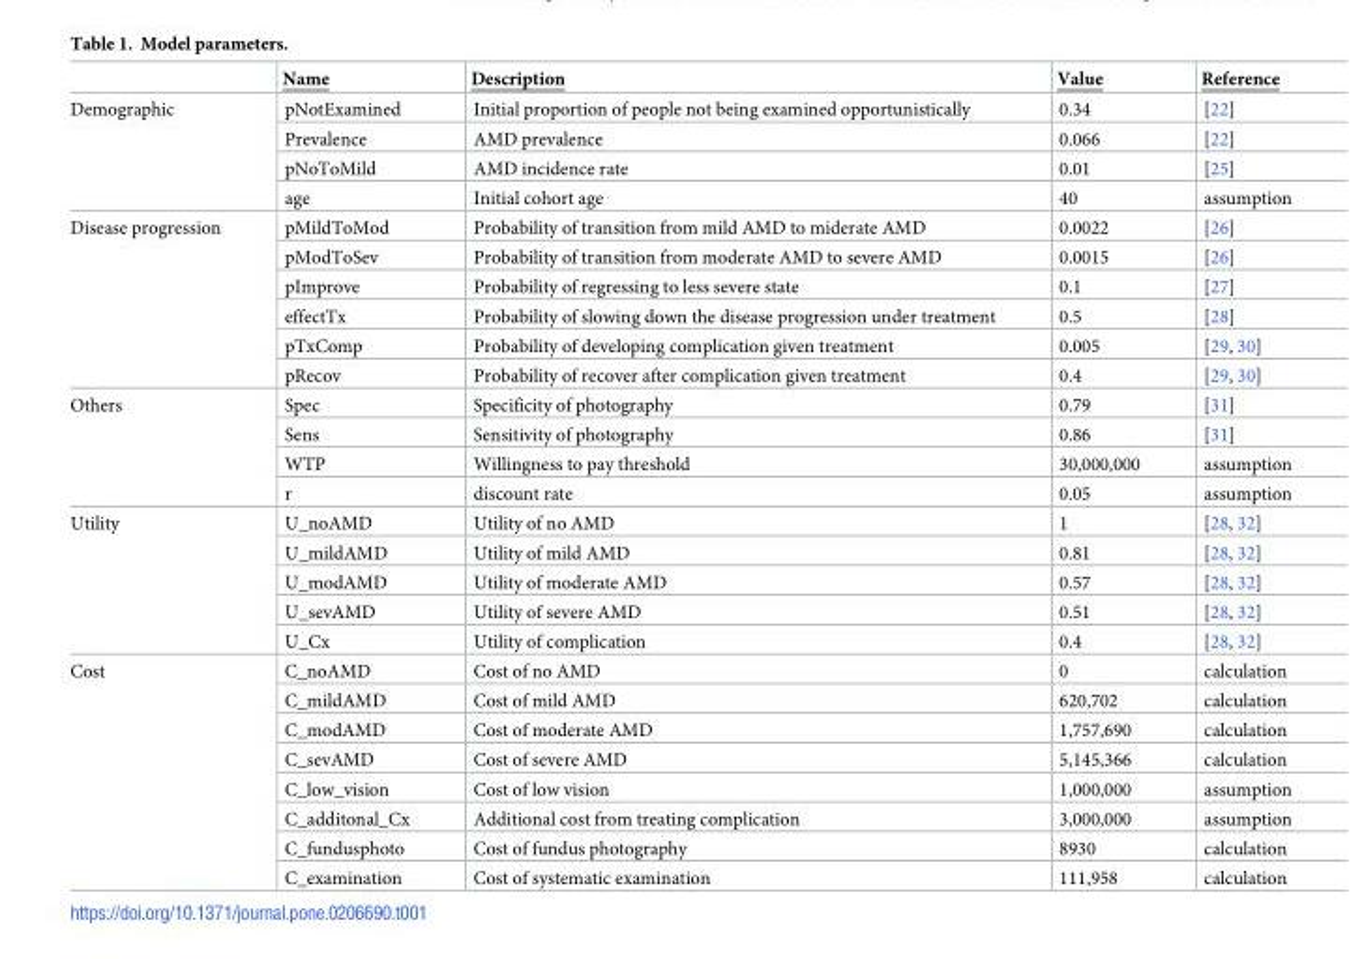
<table><thead><tr><td></td><td>Name</td><td>Description</td><td>Value</td><td>Reference</td></tr></thead><tbody><tr><td rowspan="4">Demographic</td><td>pNotExamined</td><td>Initial proportion of people not being examined opportunistically</td><td>0.34</td><td>[22]</td></tr><tr><td>Prevalence</td><td>AMD prevalence</td><td>0.066</td><td>[22]</td></tr><tr><td>pNoToMild</td><td>AMD incidence rate</td><td>0.01</td><td>[25]</td></tr><tr><td>age</td><td>Initial cohort age</td><td>40</td><td>assumption</td></tr><tr><td rowspan="6">Disease progression</td><td>pMildToMod</td><td>Probability of transition from mild AMD to miderate AMD</td><td>0.0022</td><td>[26]</td></tr><tr><td>pModToSev</td><td>Probability of transition from moderate AMD to severe AMD</td><td>0.0015</td><td>[26]</td></tr><tr><td>pImprove</td><td>Probability of regressing to less severe state</td><td>0.1</td><td>[27]</td></tr><tr><td>effectTx</td><td>Probability of slowing down the disease progression under treatment</td><td>0.5</td><td>[28]</td></tr><tr><td>pTxComp</td><td>Probability of developing complication given treatment</td><td>0.005</td><td>[29, 30]</td></tr><tr><td>pRecov</td><td>Probability of recover after complication given treatment</td><td>0.4</td><td>[29, 30]</td></tr><tr><td rowspan="4">Others</td><td>Spec</td><td>Specificity of photography</td><td>0.79</td><td>[31]</td></tr><tr><td>Sens</td><td>Sensitivity of photography</td><td>0.86</td><td>[31]</td></tr><tr><td>WTP</td><td>Willingness to pay threshold</td><td>30,000,000</td><td>assumption</td></tr><tr><td>r</td><td>discount rate</td><td>0.05</td><td>assumption</td></tr><tr><td rowspan="5">Utility</td><td>U_noAMD</td><td>Utility of no AMD</td><td>1</td><td>[28, 32]</td></tr><tr><td>U_mildAMD</td><td>Utility of mild AMD</td><td>0.81</td><td>[28, 32]</td></tr><tr><td>U_modAMD</td><td>Utility of moderate AMD</td><td>0.57</td><td>[28, 32]</td></tr><tr><td>U_sevAMD</td><td>Utility of severe AMD</td><td>0.51</td><td>[28, 32]</td></tr><tr><td>U_Cx</td><td>Utility of complication</td><td>0.4</td><td>[28, 32]</td></tr><tr><td rowspan="8">Cost</td><td>C_noAMD</td><td>Cost of no AMD</td><td>0</td><td>calculation</td></tr><tr><td>C_mildAMD</td><td>Cost of mild AMD</td><td>620,702</td><td>calculation</td></tr><tr><td>C_modAMD</td><td>Cost of moderate AMD</td><td>1,757,690</td><td>calculation</td></tr><tr><td>C_sevAMD</td><td>Cost of severe AMD</td><td>5,145,366</td><td>calculation</td></tr><tr><td>C_low_vision</td><td>Cost of low vision</td><td>1,000,000</td><td>assumption</td></tr><tr><td>C_additonal_Cx</td><td>Additional cost from treating complication</td><td>3,000,000</td><td>assumption</td></tr><tr><td>C_fundusphoto</td><td>Cost of fundus photography</td><td>8930</td><td>calculation</td></tr><tr><td>C_examination</td><td>Cost of systematic examination</td><td>111,958</td><td>calculation</td></tr></tbody></table>